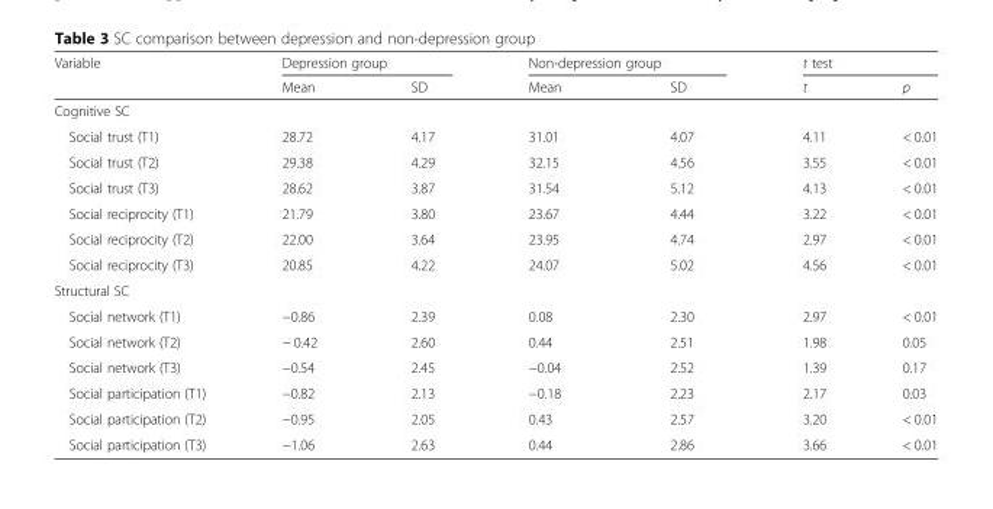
<table><thead><tr><td rowspan="2">Variable</td><td colspan="2">Depression group</td><td colspan="2">Non-depression group</td><td colspan="2">t test</td></tr><tr><td>Mean</td><td>SD</td><td>Mean</td><td>SD</td><td>t</td><td>p</td></tr></thead><tbody><tr><td colspan="7">Cognitive SC</td></tr><tr><td>Social trust (T1)</td><td>28.72</td><td>4.17</td><td>31.01</td><td>4.07</td><td>4.11</td><td>&lt; 0.01</td></tr><tr><td>Social trust (T2)</td><td>29.38</td><td>4.29</td><td>32.15</td><td>4.56</td><td>3.55</td><td>&lt; 0.01</td></tr><tr><td>Social trust (T3)</td><td>28.62</td><td>3.87</td><td>31.54</td><td>5.12</td><td>4.13</td><td>&lt; 0.01</td></tr><tr><td>Social reciprocity (T1)</td><td>21.79</td><td>3.80</td><td>23.67</td><td>4.44</td><td>3.22</td><td>&lt; 0.01</td></tr><tr><td>Social reciprocity (T2)</td><td>22.00</td><td>3.64</td><td>23.95</td><td>4.74</td><td>2.97</td><td>&lt; 0.01</td></tr><tr><td>Social reciprocity (T3)</td><td>20.85</td><td>4.22</td><td>24.07</td><td>5.02</td><td>4.56</td><td>&lt; 0.01</td></tr><tr><td colspan="7">Structural SC</td></tr><tr><td>Social network (T1)</td><td>−0.86</td><td>2.39</td><td>0.08</td><td>2.30</td><td>2.97</td><td>&lt; 0.01</td></tr><tr><td>Social network (T2)</td><td>− 0.42</td><td>2.60</td><td>0.44</td><td>2.51</td><td>1.98</td><td>0.05</td></tr><tr><td>Social network (T3)</td><td>−0.54</td><td>2.45</td><td>−0.04</td><td>2.52</td><td>1.39</td><td>0.17</td></tr><tr><td>Social participation (T1)</td><td>−0.82</td><td>2.13</td><td>−0.18</td><td>2.23</td><td>2.17</td><td>0.03</td></tr><tr><td>Social participation (T2)</td><td>−0.95</td><td>2.05</td><td>0.43</td><td>2.57</td><td>3.20</td><td>&lt; 0.01</td></tr><tr><td>Social participation (T3)</td><td>−1.06</td><td>2.63</td><td>0.44</td><td>2.86</td><td>3.66</td><td>&lt; 0.01</td></tr></tbody></table>